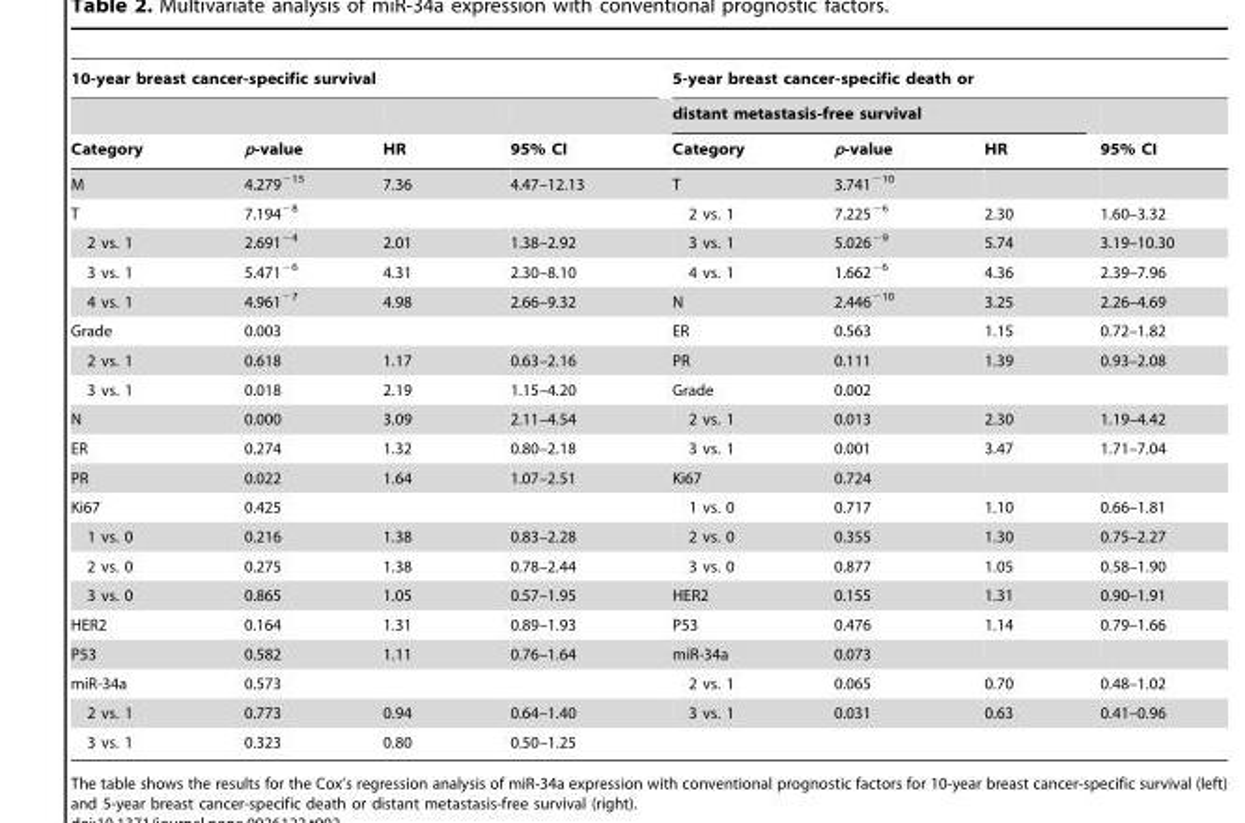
<table><thead><tr><td colspan="4">10-year breast cancer-specific survival</td><td colspan="4">5-year breast cancer-specific death or</td></tr><tr><td rowspan="2">Category</td><td rowspan="2">p-value</td><td rowspan="2">HR</td><td rowspan="2">95% CI</td><td colspan="3">distant metastasis-free survival</td><td rowspan="2">95% CI</td></tr><tr><td>Category</td><td>p-value</td><td>HR</td></tr></thead><tbody><tr><td>M</td><td>4.279<sup>−15</sup></td><td>7.36</td><td>4.47–12.13</td><td>T</td><td>3.741<sup>−10</sup></td><td></td><td></td></tr><tr><td>T</td><td>7.194<sup>−8</sup></td><td></td><td></td><td>2 vs. 1</td><td>7.225<sup>−6</sup></td><td>2.30</td><td>1.60–3.32</td></tr><tr><td>2 vs. 1</td><td>2.691<sup>−4</sup></td><td>2.01</td><td>1.38–2.92</td><td>3 vs. 1</td><td>5.026<sup>−9</sup></td><td>5.74</td><td>3.19–10.30</td></tr><tr><td>3 vs. 1</td><td>5.471<sup>−6</sup></td><td>4.31</td><td>2.30–8.10</td><td>4 vs. 1</td><td>1.662<sup>−6</sup></td><td>4.36</td><td>2.39–7.96</td></tr><tr><td>4 vs. 1</td><td>4.961<sup>−7</sup></td><td>4.98</td><td>2.66–9.32</td><td>N</td><td>2.446<sup>−10</sup></td><td>3.25</td><td>2.26–4.69</td></tr><tr><td>Grade</td><td>0.003</td><td></td><td></td><td>ER</td><td>0.563</td><td>1.15</td><td>0.72–1.82</td></tr><tr><td>2 vs. 1</td><td>0.618</td><td>1.17</td><td>0.63–2.16</td><td>PR</td><td>0.111</td><td>1.39</td><td>0.93–2.08</td></tr><tr><td>3 vs. 1</td><td>0.018</td><td>2.19</td><td>1.15–4.20</td><td>Grade</td><td>0.002</td><td></td><td></td></tr><tr><td>N</td><td>0.000</td><td>3.09</td><td>2.11–4.54</td><td>2 vs. 1</td><td>0.013</td><td>2.30</td><td>1.19–4.42</td></tr><tr><td>ER</td><td>0.274</td><td>1.32</td><td>0.80–2.18</td><td>3 vs. 1</td><td>0.001</td><td>3.47</td><td>1.71–7.04</td></tr><tr><td>PR</td><td>0.022</td><td>1.64</td><td>1.07–2.51</td><td>Ki67</td><td>0.724</td><td></td><td></td></tr><tr><td>Ki67</td><td>0.425</td><td></td><td></td><td>1 vs. 0</td><td>0.717</td><td>1.10</td><td>0.66–1.81</td></tr><tr><td>1 vs. 0</td><td>0.216</td><td>1.38</td><td>0.83–2.28</td><td>2 vs. 0</td><td>0.355</td><td>1.30</td><td>0.75–2.27</td></tr><tr><td>2 vs. 0</td><td>0.275</td><td>1.38</td><td>0.78–2.44</td><td>3 vs. 0</td><td>0.877</td><td>1.05</td><td>0.58–1.90</td></tr><tr><td>3 vs. 0</td><td>0.865</td><td>1.05</td><td>0.57–1.95</td><td>HER2</td><td>0.155</td><td>1.31</td><td>0.90–1.91</td></tr><tr><td>HER2</td><td>0.164</td><td>1.31</td><td>0.89–1.93</td><td>P53</td><td>0.476</td><td>1.14</td><td>0.79–1.66</td></tr><tr><td>P53</td><td>0.582</td><td>1.11</td><td>0.76–1.64</td><td>miR-34a</td><td>0.073</td><td></td><td></td></tr><tr><td>miR-34a</td><td>0.573</td><td></td><td></td><td>2 vs. 1</td><td>0.065</td><td>0.70</td><td>0.48–1.02</td></tr><tr><td>2 vs. 1</td><td>0.773</td><td>0.94</td><td>0.64–1.40</td><td>3 vs. 1</td><td>0.031</td><td>0.63</td><td>0.41–0.96</td></tr><tr><td>3 vs. 1</td><td>0.323</td><td>0.80</td><td>0.50–1.25</td><td></td><td></td><td></td><td></td></tr></tbody></table>